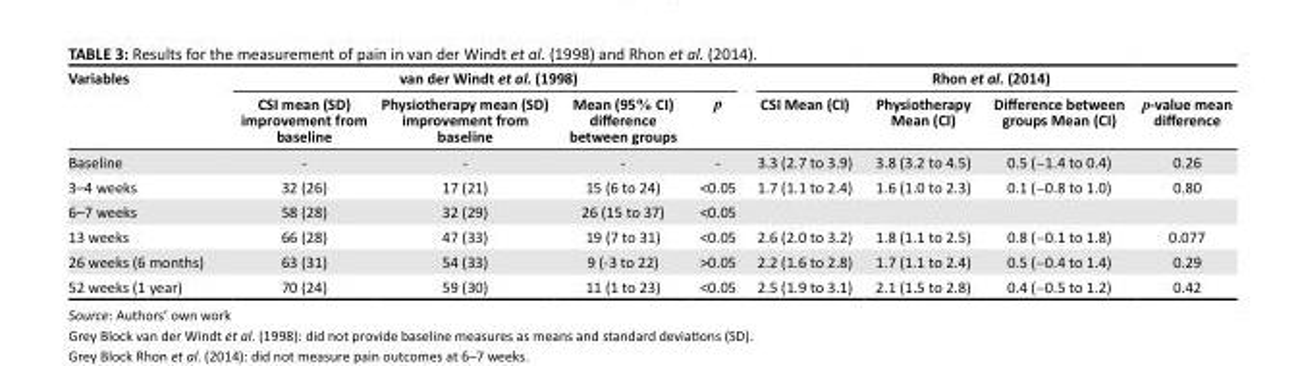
<table><thead><tr><td rowspan="2">Variables</td><td colspan="4">van der Windt et al. (1998)</td><td colspan="4">Rhon et al. (2014)</td></tr><tr><td>CSI mean (SD) improvement from baseline</td><td>Physiotherapy mean (SD) improvement from baseline</td><td>Mean (95% CI) difference between groups</td><td>p</td><td>CSI Mean (CI)</td><td>Physiotherapy Mean (CI)</td><td>Difference between groups Mean (CI)</td><td>p-value mean difference</td></tr></thead><tbody><tr><td>Baseline</td><td>-</td><td>-</td><td>-</td><td>-</td><td>3.3 (2.7 to 3.9)</td><td>3.8 (3.2 to 4.5)</td><td>0.5 (−1.4 to 0.4)</td><td>0.26</td></tr><tr><td>3–4 weeks</td><td>32 (26)</td><td>17 (21)</td><td>15 (6 to 24)</td><td>&lt;0.05</td><td>1.7 (1.1 to 2.4)</td><td>1.6 (1.0 to 2.3)</td><td>0.1 (−0.8 to 1.0)</td><td>0.80</td></tr><tr><td>6–7 weeks</td><td>58 (28)</td><td>32 (29)</td><td>26 (15 to 37)</td><td>&lt;0.05</td><td></td><td></td><td></td><td></td></tr><tr><td>13 weeks</td><td>66 (28)</td><td>47 (33)</td><td>19 (7 to 31)</td><td>&lt;0.05</td><td>2.6 (2.0 to 3.2)</td><td>1.8 (1.1 to 2.5)</td><td>0.8 (−0.1 to 1.8)</td><td>0.077</td></tr><tr><td>26 weeks (6 months)</td><td>63 (31)</td><td>54 (33)</td><td>9 (-3 to 22)</td><td>&gt;0.05</td><td>2.2 (1.6 to 2.8)</td><td>1.7 (1.1 to 2.4)</td><td>0.5 (−0.4 to 1.4)</td><td>0.29</td></tr><tr><td>52 weeks (1 year)</td><td>70 (24)</td><td>59 (30)</td><td>11 (1 to 23)</td><td>&lt;0.05</td><td>2.5 (1.9 to 3.1)</td><td>2.1 (1.5 to 2.8)</td><td>0.4 (−0.5 to 1.2)</td><td>0.42</td></tr></tbody></table>